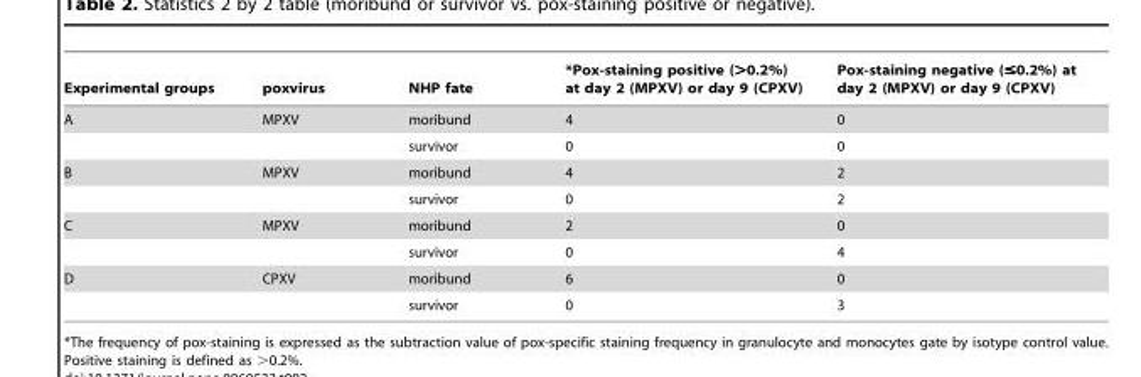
<table><thead><tr><td>Experimental groups</td><td>poxvirus</td><td>NHP fate</td><td>*Pox-staining positive (&gt;0.2%) at day 2 (MPXV) or day 9 (CPXV)</td><td>Pox-staining negative (≤0.2%) at day 2 (MPXV) or day 9 (CPXV)</td></tr></thead><tbody><tr><td rowspan="2">A</td><td>MPXV</td><td>moribund</td><td>4</td><td>0</td></tr><tr><td></td><td>survivor</td><td>0</td><td>0</td></tr><tr><td rowspan="2">B</td><td>MPXV</td><td>moribund</td><td>4</td><td>2</td></tr><tr><td></td><td>survivor</td><td>0</td><td>2</td></tr><tr><td rowspan="2">C</td><td>MPXV</td><td>moribund</td><td>2</td><td>0</td></tr><tr><td></td><td>survivor</td><td>0</td><td>4</td></tr><tr><td rowspan="2">D</td><td>CPXV</td><td>moribund</td><td>6</td><td>0</td></tr><tr><td></td><td>survivor</td><td>0</td><td>3</td></tr></tbody></table>